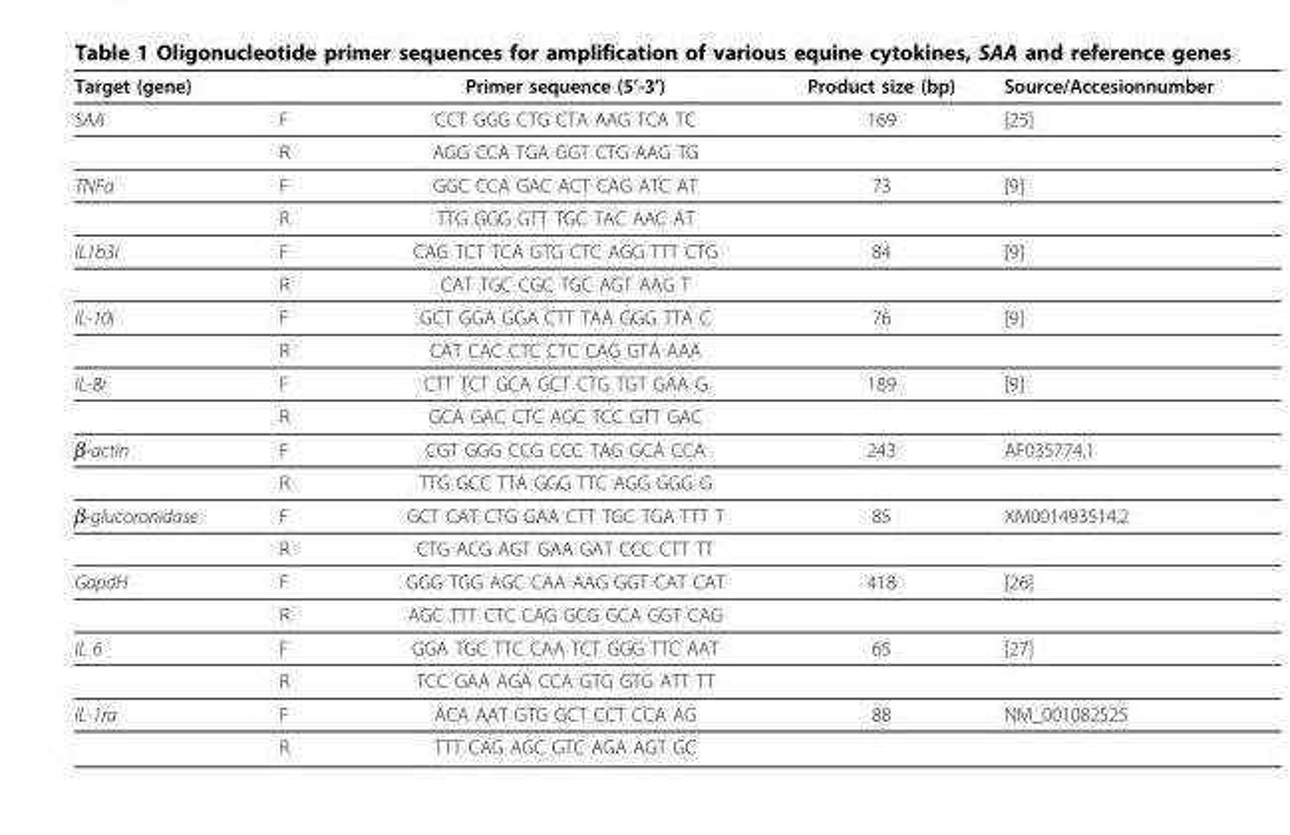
<table><thead><tr><td>Target (gene)</td><td></td><td>Primer sequence (5’-3’)</td><td>Product size (bp)</td><td>Source/Accesionnumber</td></tr></thead><tbody><tr><td rowspan="2">SAA</td><td>F</td><td>CCT GGG CTG CTA AAG TCA TC</td><td>169</td><td>[25]</td></tr><tr><td>R</td><td>AGG CCA TGA GGT CTG AAG TG</td><td></td><td></td></tr><tr><td rowspan="2">TNFa</td><td>F</td><td>GGC CCA GAC ACT CAG ATC AT</td><td>73</td><td>[9]</td></tr><tr><td>R</td><td>TTG GGG GTT TGC TAC AAC AT</td><td></td><td></td></tr><tr><td rowspan="2">IL1b3i</td><td>F</td><td>CAG TCT TCA GTG CTC AGG TTT CTG</td><td>84</td><td>[9]</td></tr><tr><td>R</td><td>CAT TGC CGC TGC AGT AAG T</td><td></td><td></td></tr><tr><td rowspan="2">IL-10i</td><td>F</td><td>GCT GGA GGA CTT TAA GGG TTA C</td><td>76</td><td>[9]</td></tr><tr><td>R</td><td>CAT CAC CTC CTC CAG GTA AAA</td><td></td><td></td></tr><tr><td rowspan="2">IL-8i</td><td>F</td><td>CTT TCT GCA GCT CTG TGT GAA G</td><td>189</td><td>[9]</td></tr><tr><td>R</td><td>GCA GAC CTC AGC TCC GTT GAC</td><td></td><td></td></tr><tr><td rowspan="2">β-actin</td><td>F</td><td>CGT GGG CCG CCC TAG GCA CCA</td><td>243</td><td>AF035774.1</td></tr><tr><td>R</td><td>TTG GCC TTA GGG TTC AGG GGG G</td><td></td><td></td></tr><tr><td rowspan="2">β-glucoronidase</td><td>F</td><td>GCT CAT CTG GAA CTT TGC TGA TTT T</td><td>85</td><td>XM001493514.2</td></tr><tr><td>R</td><td>CTG ACG AGT GAA GAT CCC CTT TT</td><td></td><td></td></tr><tr><td rowspan="2">GapdH</td><td>F</td><td>GGG TGG AGC CAA AAG GGT CAT CAT</td><td>418</td><td>[26]</td></tr><tr><td>R</td><td>AGC TTT CTC CAG GCG GCA GGT CAG</td><td></td><td></td></tr><tr><td rowspan="2">IL 6</td><td>F</td><td>GGA TGC TTC CAA TCT GGG TTC AAT</td><td>65</td><td>[27]</td></tr><tr><td>R</td><td>TCC GAA AGA CCA GTG GTG ATT TT</td><td></td><td></td></tr><tr><td rowspan="2">IL-1ra</td><td>F</td><td>ACA AAT GTG GCT CCT CCA AG</td><td>88</td><td>NM_001082525</td></tr><tr><td>R</td><td>TTT CAG AGC GTC AGA AGT GC</td><td></td><td></td></tr></tbody></table>